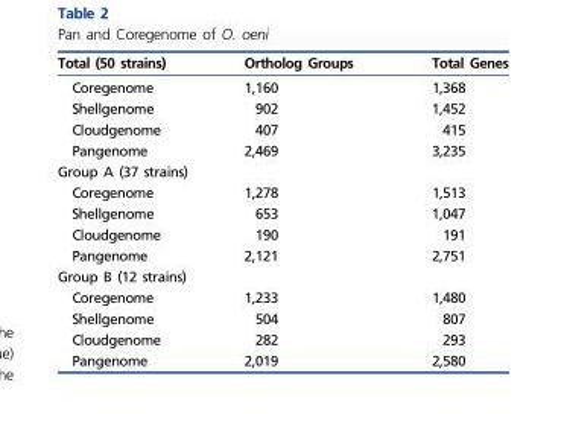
<table><thead><tr><td>Total (50 strains)</td><td>Ortholog Groups</td><td>Total Genes</td></tr></thead><tbody><tr><td>Coregenome</td><td>1,160</td><td>1,368</td></tr><tr><td>Shellgenome</td><td>902</td><td>1,452</td></tr><tr><td>Cloudgenome</td><td>407</td><td>415</td></tr><tr><td>Pangenome</td><td>2,469</td><td>3,235</td></tr><tr><td colspan="3">Group A (37 strains)</td></tr><tr><td>Coregenome</td><td>1,278</td><td>1,513</td></tr><tr><td>Shellgenome</td><td>653</td><td>1,047</td></tr><tr><td>Cloudgenome</td><td>190</td><td>191</td></tr><tr><td>Pangenome</td><td>2,121</td><td>2,751</td></tr><tr><td colspan="3">Group B (12 strains)</td></tr><tr><td>Coregenome</td><td>1,233</td><td>1,480</td></tr><tr><td>Shellgenome</td><td>504</td><td>807</td></tr><tr><td>Cloudgenome</td><td>282</td><td>293</td></tr><tr><td>Pangenome</td><td>2,019</td><td>2,580</td></tr></tbody></table>